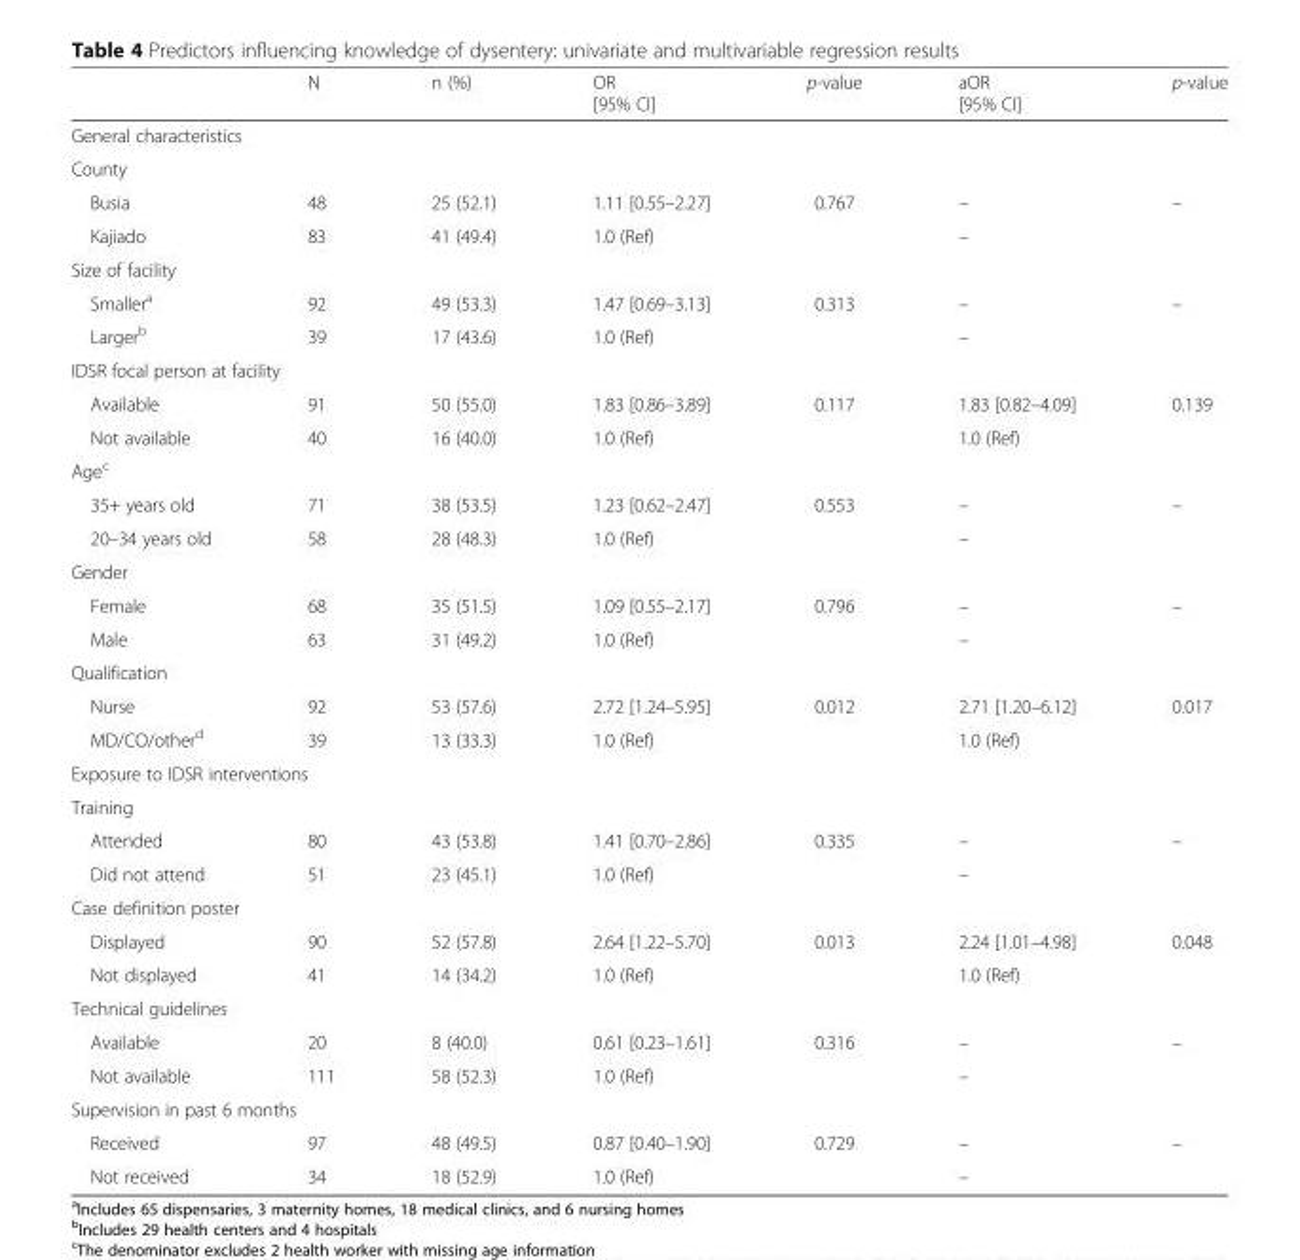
<table><thead><tr><td></td><td>N</td><td>n (%)</td><td>OR [95% CI]</td><td>p-value</td><td>aOR [95% CI]</td><td>p-value</td></tr></thead><tbody><tr><td colspan="7">General characteristics</td></tr><tr><td colspan="7">County</td></tr><tr><td>Busia</td><td>48</td><td>25 (52.1)</td><td>1.11 [0.55–2.27]</td><td>0.767</td><td>–</td><td>–</td></tr><tr><td>Kajiado</td><td>83</td><td>41 (49.4)</td><td>1.0 (Ref)</td><td></td><td>–</td><td></td></tr><tr><td colspan="7">Size of facility</td></tr><tr><td>Smaller<sup>a</sup></td><td>92</td><td>49 (53.3)</td><td>1.47 [0.69–3.13]</td><td>0.313</td><td>–</td><td>–</td></tr><tr><td>Larger<sup>b</sup></td><td>39</td><td>17 (43.6)</td><td>1.0 (Ref)</td><td></td><td>–</td><td></td></tr><tr><td colspan="7">IDSR focal person at facility</td></tr><tr><td>Available</td><td>91</td><td>50 (55.0)</td><td>1.83 [0.86–3.89]</td><td>0.117</td><td>1.83 [0.82–4.09]</td><td>0.139</td></tr><tr><td>Not available</td><td>40</td><td>16 (40.0)</td><td>1.0 (Ref)</td><td></td><td>1.0 (Ref)</td><td></td></tr><tr><td colspan="7">Age<sup>c</sup></td></tr><tr><td>35+ years old</td><td>71</td><td>38 (53.5)</td><td>1.23 [0.62–2.47]</td><td>0.553</td><td>–</td><td>–</td></tr><tr><td>20–34 years old</td><td>58</td><td>28 (48.3)</td><td>1.0 (Ref)</td><td></td><td>–</td><td></td></tr><tr><td colspan="7">Gender</td></tr><tr><td>Female</td><td>68</td><td>35 (51.5)</td><td>1.09 [0.55–2.17]</td><td>0.796</td><td>–</td><td>–</td></tr><tr><td>Male</td><td>63</td><td>31 (49.2)</td><td>1.0 (Ref)</td><td></td><td>–</td><td></td></tr><tr><td colspan="7">Qualification</td></tr><tr><td>Nurse</td><td>92</td><td>53 (57.6)</td><td>2.72 [1.24–5.95]</td><td>0.012</td><td>2.71 [1.20–6.12]</td><td>0.017</td></tr><tr><td>MD/CO/other<sup>d</sup></td><td>39</td><td>13 (33.3)</td><td>1.0 (Ref)</td><td></td><td>1.0 (Ref)</td><td></td></tr><tr><td colspan="7">Exposure to IDSR interventions</td></tr><tr><td colspan="7">Training</td></tr><tr><td>Attended</td><td>80</td><td>43 (53.8)</td><td>1.41 [0.70–2.86]</td><td>0.335</td><td>–</td><td>–</td></tr><tr><td>Did not attend</td><td>51</td><td>23 (45.1)</td><td>1.0 (Ref)</td><td></td><td>–</td><td></td></tr><tr><td colspan="7">Case definition poster</td></tr><tr><td>Displayed</td><td>90</td><td>52 (57.8)</td><td>2.64 [1.22–5.70]</td><td>0.013</td><td>2.24 [1.01–4.98]</td><td>0.048</td></tr><tr><td>Not displayed</td><td>41</td><td>14 (34.2)</td><td>1.0 (Ref)</td><td></td><td>1.0 (Ref)</td><td></td></tr><tr><td colspan="7">Technical guidelines</td></tr><tr><td>Available</td><td>20</td><td>8 (40.0)</td><td>0.61 [0.23–1.61]</td><td>0.316</td><td>–</td><td>–</td></tr><tr><td>Not available</td><td>111</td><td>58 (52.3)</td><td>1.0 (Ref)</td><td></td><td>–</td><td></td></tr><tr><td colspan="7">Supervision in past 6 months</td></tr><tr><td>Received</td><td>97</td><td>48 (49.5)</td><td>0.87 [0.40–1.90]</td><td>0.729</td><td>–</td><td>–</td></tr><tr><td>Not received</td><td>34</td><td>18 (52.9)</td><td>1.0 (Ref)</td><td></td><td>–</td><td></td></tr></tbody></table>